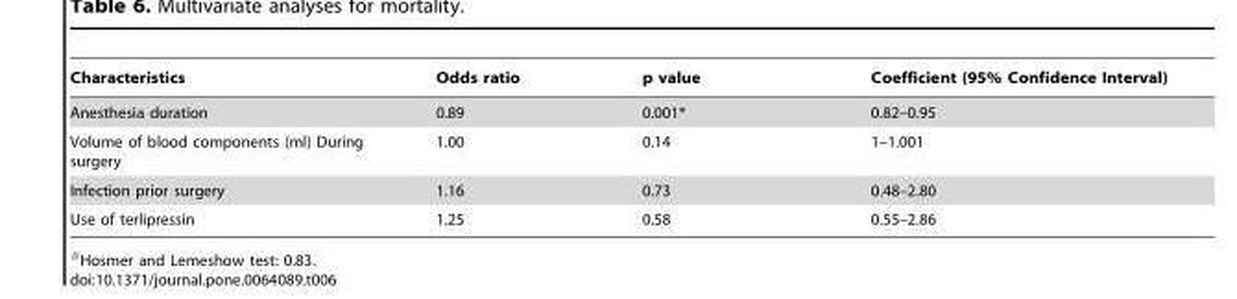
<table><thead><tr><td>Characteristics</td><td>Odds ratio</td><td>p value</td><td>Coefficient (95% Confidence Interval)</td></tr></thead><tbody><tr><td>Anesthesia duration</td><td>0.89</td><td>0.001*</td><td>0.82–0.95</td></tr><tr><td>Volume of blood components (ml) During surgery</td><td>1.00</td><td>0.14</td><td>1–1.001</td></tr><tr><td>Infection prior surgery</td><td>1.16</td><td>0.73</td><td>0.48–2.80</td></tr><tr><td>Use of terlipressin</td><td>1.25</td><td>0.58</td><td>0.55–2.86</td></tr></tbody></table>